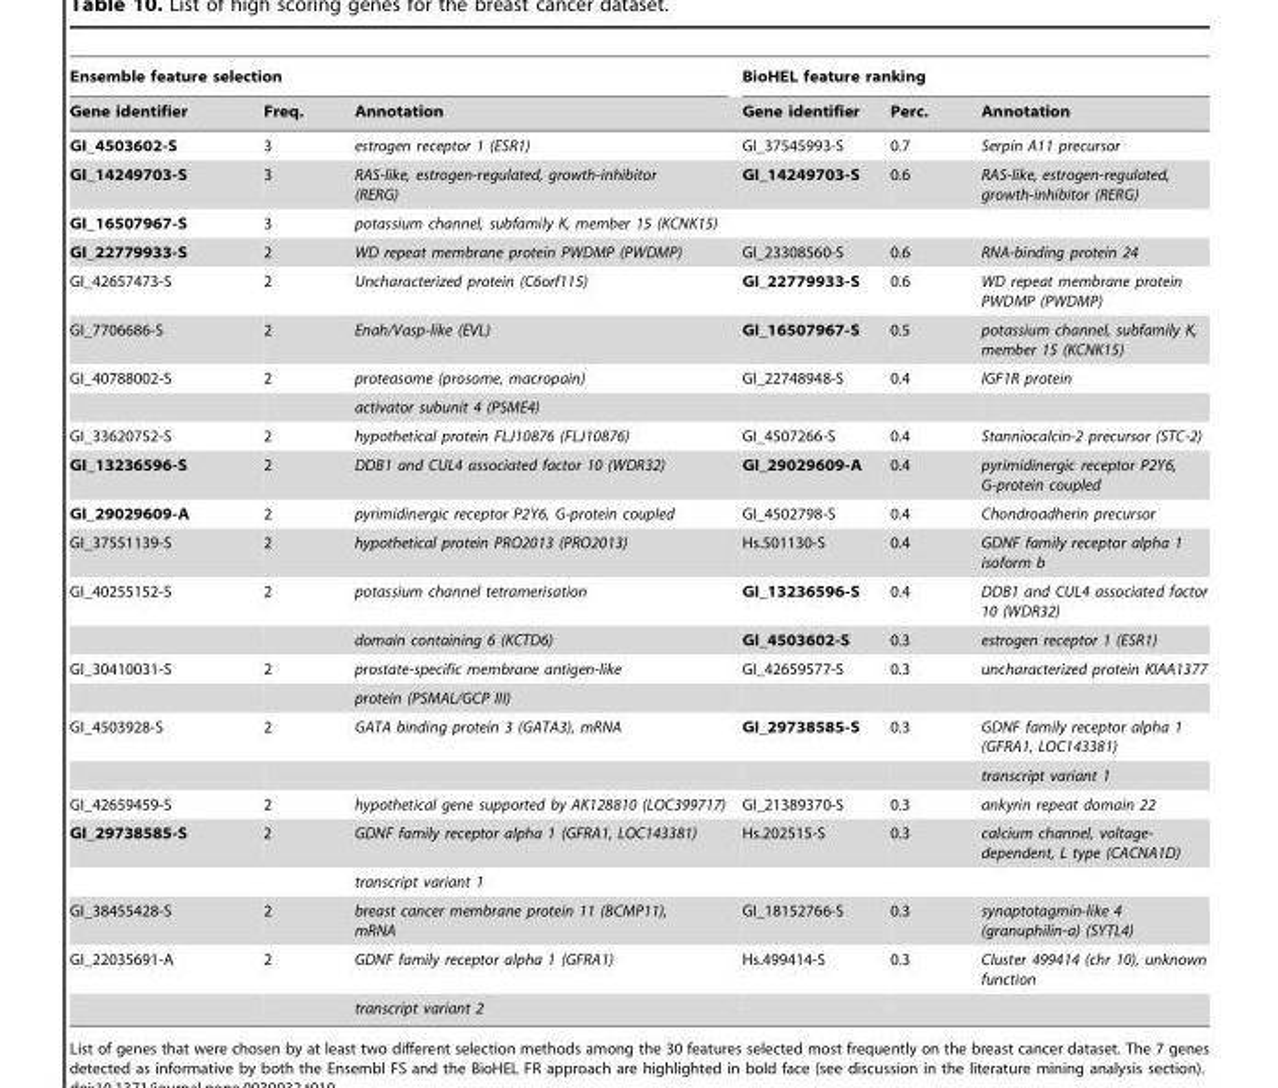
<table><thead><tr><td colspan="3">Ensemble feature selection</td><td colspan="3">BioHEL feature ranking</td></tr><tr><td>Gene identifier</td><td>Freq.</td><td>Annotation</td><td>Gene identifier</td><td>Perc.</td><td>Annotation</td></tr></thead><tbody><tr><td>GI_4503602-S</td><td>3</td><td>estrogen receptor 1 (ESR1)</td><td>GI_37545993-S</td><td>0.7</td><td>Serpin A11 precursor</td></tr><tr><td>GI_14249703-S</td><td>3</td><td>RAS-like, estrogen-regulated, growth-inhibitor (RERG)</td><td>GI_14249703-S</td><td>0.6</td><td>RAS-like, estrogen-regulated, growth-inhibitor (RERG)</td></tr><tr><td>GI_16507967-S</td><td>3</td><td>potassium channel, subfamily K, member 15 (KCNK15)</td><td></td><td></td><td></td></tr><tr><td>GI_22779933-S</td><td>2</td><td>WD repeat membrane protein PWDMP (PWDMP)</td><td>GI_23308560-S</td><td>0.6</td><td>RNA-binding protein 24</td></tr><tr><td>GI_42657473-S</td><td>2</td><td>Uncharacterized protein (C6orf115)</td><td>GI_22779933-S</td><td>0.6</td><td>WD repeat membrane protein PWDMP (PWDMP)</td></tr><tr><td>GI_7706686-S</td><td>2</td><td>Enah/Vasp-like (EVL)</td><td>GI_16507967-S</td><td>0.5</td><td>potassium channel, subfamily K, member 15 (KCNK15)</td></tr><tr><td rowspan="2">GI_40788002-S</td><td>2</td><td>proteasome (prosome, macropain)</td><td>GI_22748948-S</td><td>0.4</td><td>IGF1R protein</td></tr><tr><td></td><td>activator subunit 4 (PSME4)</td><td></td><td></td><td></td></tr><tr><td>GI_33620752-S</td><td>2</td><td>hypothetical protein FLJ10876 (FLJ10876)</td><td>GI_4507266-S</td><td>0.4</td><td>Stanniocalcin-2 precursor (STC-2)</td></tr><tr><td>GI_13236596-S</td><td>2</td><td>DDB1 and CUL4 associated factor 10 (WDR32)</td><td>GI_29029609-A</td><td>0.4</td><td>pyrimidinergic receptor P2Y6, G-protein coupled</td></tr><tr><td>GI_29029609-A</td><td>2</td><td>pyrimidinergic receptor P2Y6, G-protein coupled</td><td>GI_4502798-S</td><td>0.4</td><td>Chondroadherin precursor</td></tr><tr><td>GI_37551139-S</td><td>2</td><td>hypothetical protein PRO2013 (PRO2013)</td><td>Hs.501130-S</td><td>0.4</td><td>GDNF family receptor alpha 1 isoform b</td></tr><tr><td rowspan="2">GI_40255152-S</td><td>2</td><td>potassium channel tetramerisation</td><td>GI_13236596-S</td><td>0.4</td><td>DDB1 and CUL4 associated factor 10 (WDR32)</td></tr><tr><td></td><td>domain containing 6 (KCTD6)</td><td>GI_4503602-S</td><td>0.3</td><td>estrogen receptor 1 (ESR1)</td></tr><tr><td rowspan="2">GI_30410031-S</td><td>2</td><td>prostate-specific membrane antigen-like</td><td>GI_42659577-S</td><td>0.3</td><td>uncharacterized protein KIAA1377</td></tr><tr><td></td><td>protein (PSMAL/GCP III)</td><td></td><td></td><td></td></tr><tr><td rowspan="2">GI_4503928-S</td><td>2</td><td>GATA binding protein 3 (GATA3), mRNA</td><td>GI_29738585-S</td><td>0.3</td><td>GDNF family receptor alpha 1 (GFRA1, LOC143381)</td></tr><tr><td></td><td></td><td></td><td></td><td>transcript variant 1</td></tr><tr><td>GI_42659459-S</td><td>2</td><td>hypothetical gene supported by AK128810 (LOC399717)</td><td>GI_21389370-S</td><td>0.3</td><td>ankyrin repeat domain 22</td></tr><tr><td rowspan="2">GI_29738585-S</td><td>2</td><td>GDNF family receptor alpha 1 (GFRA1, LOC143381)</td><td>Hs.202515-S</td><td>0.3</td><td>calcium channel, voltage- dependent, L type (CACNA1D)</td></tr><tr><td></td><td>transcript variant 1</td><td></td><td></td><td></td></tr><tr><td>GI_38455428-S</td><td>2</td><td>breast cancer membrane protein 11 (BCMP11), mRNA</td><td>GI_18152766-S</td><td>0.3</td><td>synaptotagmin-like 4 (granuphilin-a) (SYTL4)</td></tr><tr><td rowspan="2">GI_22035691-A</td><td>2</td><td>GDNF family receptor alpha 1 (GFRA1)</td><td>Hs.499414-S</td><td>0.3</td><td>Cluster 499414 (chr 10), unknown function</td></tr><tr><td></td><td>transcript variant 2</td><td></td><td></td><td></td></tr></tbody></table>